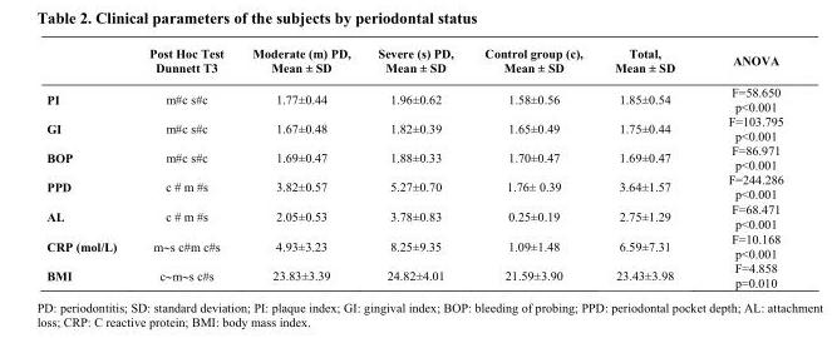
<table><thead><tr><td></td><td>Post Hoc Test Dunnett T3</td><td>Moderate (m) PD, Mean ± SD</td><td>Severe (s) PD, Mean ± SD</td><td>Control group (c), Mean ± SD</td><td>Total, Mean ± SD</td><td>ANOVA</td></tr></thead><tbody><tr><td>PI</td><td>m#c s#c</td><td>1.77±0.44</td><td>1.96±0.62</td><td>1.58±0.56</td><td>1.85±0.54</td><td>F=58.650 p&lt;0.001</td></tr><tr><td>GI</td><td>m#c s#c</td><td>1.67±0.48</td><td>1.82±0.39</td><td>1.65±0.49</td><td>1.75±0.44</td><td>F=103.795 p&lt;0.001</td></tr><tr><td>BOP</td><td>m#c s#c</td><td>1.69±0.47</td><td>1.88±0.33</td><td>1.70±0.47</td><td>1.69±0.47</td><td>F=86.971 p&lt;0.001</td></tr><tr><td>PPD</td><td>c # m #s</td><td>3.82±0.57</td><td>5.27±0.70</td><td>1.76± 0.39</td><td>3.64±1.57</td><td>F=244.286 p&lt;0.001</td></tr><tr><td>AL</td><td>c # m #s</td><td>2.05±0.53</td><td>3.78±0.83</td><td>0.25±0.19</td><td>2.75±1.29</td><td>F=68.471 p&lt;0.001</td></tr><tr><td>CRP (mol/L)</td><td>m∼s c#m c#s</td><td>4.93±3.23</td><td>8.25±9.35</td><td>1.09±1.48</td><td>6.59±7.31</td><td>F=10.168 p&lt;0.001</td></tr><tr><td>BMI</td><td>c∼m∼s c#s</td><td>23.83±3.39</td><td>24.82±4.01</td><td>21.59±3.90</td><td>23.43±3.98</td><td>F=4.858 p=0.010</td></tr></tbody></table>